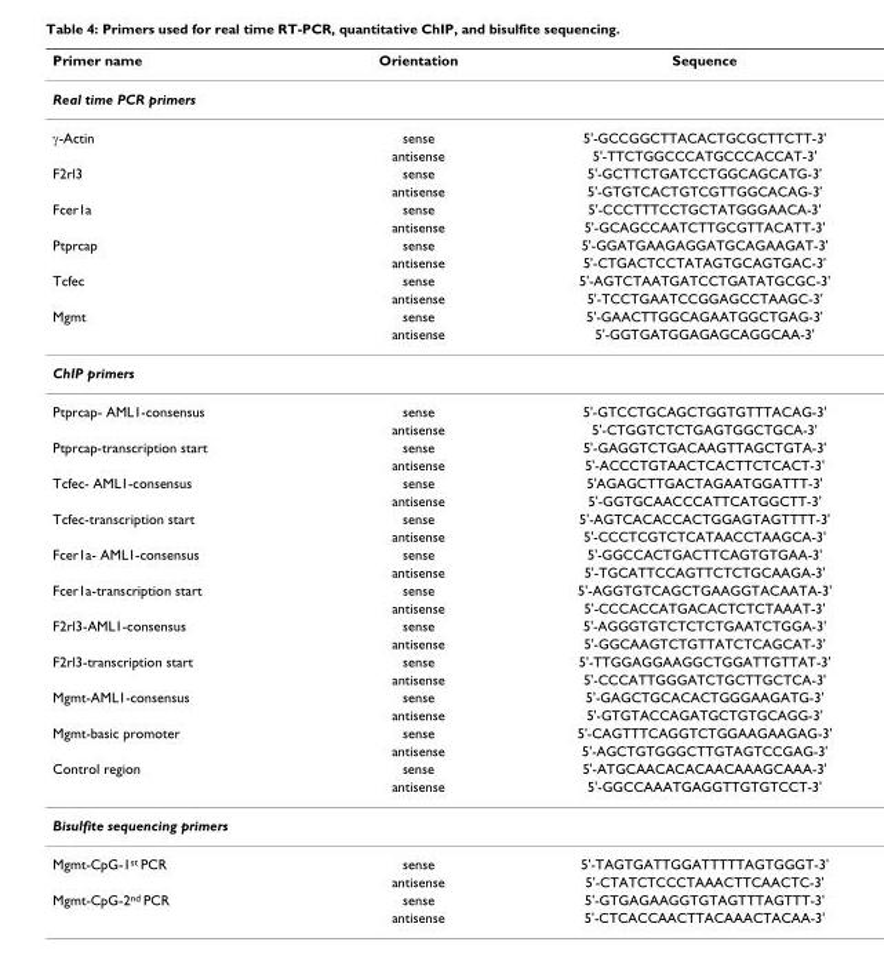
<table><thead><tr><td>Primer name</td><td>Orientation</td><td>Sequence</td></tr></thead><tbody><tr><td colspan="3">Real time PCR primers</td></tr><tr><td rowspan="2">γ-Actin</td><td>sense</td><td>5&#x27;-GCCGGCTTACACTGCGCTTCTT-3&#x27;</td></tr><tr><td>antisense</td><td>5&#x27;-TTCTGGCCCATGCCCACCAT-3&#x27;</td></tr><tr><td rowspan="2">F2rl3</td><td>sense</td><td>5&#x27;-GCTTCTGATCCTGGCAGCATG-3&#x27;</td></tr><tr><td>antisense</td><td>5&#x27;-GTGTCACTGTCGTTGGCACAG-3&#x27;</td></tr><tr><td rowspan="2">Fcer1a</td><td>sense</td><td>5&#x27;-CCCTTTCCTGCTATGGGAACA-3&#x27;</td></tr><tr><td>antisense</td><td>5&#x27;-GCAGCCAATCTTGCGTTACATT-3&#x27;</td></tr><tr><td rowspan="2">Ptprcap</td><td>sense</td><td>5&#x27;-GGATGAAGAGGATGCAGAAGAT-3&#x27;</td></tr><tr><td>antisense</td><td>5&#x27;-CTGACTCCTATAGTGCAGTGAC-3&#x27;</td></tr><tr><td rowspan="2">Tcfec</td><td>sense</td><td>5&#x27;-AGTCTAATGATCCTGATATGCGC-3&#x27;</td></tr><tr><td>antisense</td><td>5&#x27;-TCCTGAATCCGGAGCCTAAGC-3&#x27;</td></tr><tr><td rowspan="2">Mgmt</td><td>sense</td><td>5&#x27;-GAACTTGGCAGAATGGCTGAG-3&#x27;</td></tr><tr><td>antisense</td><td>5&#x27;-GGTGATGGAGAGCAGGCAA-3&#x27;</td></tr><tr><td colspan="3">ChIP primers</td></tr><tr><td rowspan="2">Ptprcap- AML1-consensus</td><td>sense</td><td>5&#x27;-GTCCTGCAGCTGGTGTTTACAG-3&#x27;</td></tr><tr><td>antisense</td><td>5&#x27;-CTGGTCTCTGAGTGGCTGCA-3&#x27;</td></tr><tr><td rowspan="2">Ptprcap-transcription start</td><td>sense</td><td>5&#x27;-GAGGTCTGACAAGTTAGCTGTA-3&#x27;</td></tr><tr><td>antisense</td><td>5&#x27;-ACCCTGTAACTCACTTCTCACT-3&#x27;</td></tr><tr><td rowspan="2">Tcfec- AML1-consensus</td><td>sense</td><td>5&#x27;AGAGCTTGACTAGAATGGATTT-3&#x27;</td></tr><tr><td>antisense</td><td>5&#x27;-GGTGCAACCCATTCATGGCTT-3&#x27;</td></tr><tr><td rowspan="2">Tcfec-transcription start</td><td>sense</td><td>5&#x27;-AGTCACACCACTGGAGTAGTTTT-3&#x27;</td></tr><tr><td>antisense</td><td>5&#x27;-CCCTCGTCTCATAACCTAAGCA-3&#x27;</td></tr><tr><td rowspan="2">Fcer1a- AML1-consensus</td><td>sense</td><td>5&#x27;-GGCCACTGACTTCAGTGTGAA-3&#x27;</td></tr><tr><td>antisense</td><td>5&#x27;-TGCATTCCAGTTCTCTGCAAGA-3&#x27;</td></tr><tr><td rowspan="2">Fcer1a-transcription start</td><td>sense</td><td>5&#x27;-AGGTGTCAGCTGAAGGTACAATA-3&#x27;</td></tr><tr><td>antisense</td><td>5&#x27;-CCCACCATGACACTCTCTAAAT-3&#x27;</td></tr><tr><td rowspan="2">F2rl3-AML1-consensus</td><td>sense</td><td>5&#x27;-AGGGTGTCTCTCTGAATCTGGA-3&#x27;</td></tr><tr><td>antisense</td><td>5&#x27;-GGCAAGTCTGTTATCTCAGCAT-3&#x27;</td></tr><tr><td rowspan="2">F2rl3-transcription start</td><td>sense</td><td>5&#x27;-TTGGAGGAAGGCTGGATTGTTAT-3&#x27;</td></tr><tr><td>antisense</td><td>5&#x27;-CCCATTGGGATCTGCTTGCTCA-3&#x27;</td></tr><tr><td rowspan="2">Mgmt-AML1-consensus</td><td>sense</td><td>5&#x27;-GAGCTGCACACTGGGAAGATG-3&#x27;</td></tr><tr><td>antisense</td><td>5&#x27;-GTGTACCAGATGCTGTGCAGG-3&#x27;</td></tr><tr><td rowspan="2">Mgmt-basic promoter</td><td>sense</td><td>5&#x27;-CAGTTTCAGGTCTGGAAGAAGAG-3&#x27;</td></tr><tr><td>antisense</td><td>5&#x27;-AGCTGTGGGCTTGTAGTCCGAG-3&#x27;</td></tr><tr><td rowspan="2">Control region</td><td>sense</td><td>5&#x27;-ATGCAACACACAACAAAGCAAA-3&#x27;</td></tr><tr><td>antisense</td><td>5&#x27;-GGCCAAATGAGGTTGTGTCCT-3&#x27;</td></tr><tr><td colspan="3">Bisulfite sequencing primers</td></tr><tr><td rowspan="2">Mgmt-CpG-1st PCR</td><td>sense</td><td>5&#x27;-TAGTGATTGGATTTTTAGTGGGT-3&#x27;</td></tr><tr><td>antisense</td><td>5&#x27;-CTATCTCCCTAAACTTCAACTC-3&#x27;</td></tr><tr><td rowspan="2">Mgmt-CpG-2nd PCR</td><td>sense</td><td>5&#x27;-GTGAGAAGGTGTAGTTTAGTTT-3&#x27;</td></tr><tr><td>antisense</td><td>5&#x27;-CTCACCAACTTACAAACTACAA-3&#x27;</td></tr></tbody></table>